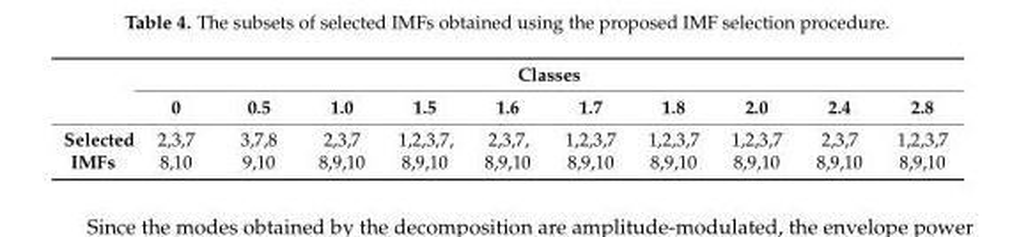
<table><thead><tr><td rowspan="2"></td><td colspan="10">Classes</td></tr><tr><td>0</td><td>0.5</td><td>1.0</td><td>1.5</td><td>1.6</td><td>1.7</td><td>1.8</td><td>2.0</td><td>2.4</td><td>2.8</td></tr></thead><tbody><tr><td>Selected IMFs</td><td>2,3,7 8,10</td><td>3,7,8 9,10</td><td>2,3,7 8,9,10</td><td>1,2,3,7, 8,9,10</td><td>2,3,7, 8,9,10</td><td>1,2,3,7 8,9,10</td><td>1,2,3,7 8,9,10</td><td>1,2,3,7 8,9,10</td><td>2,3,7 8,9,10</td><td>1,2,3,7 8,9,10</td></tr></tbody></table>